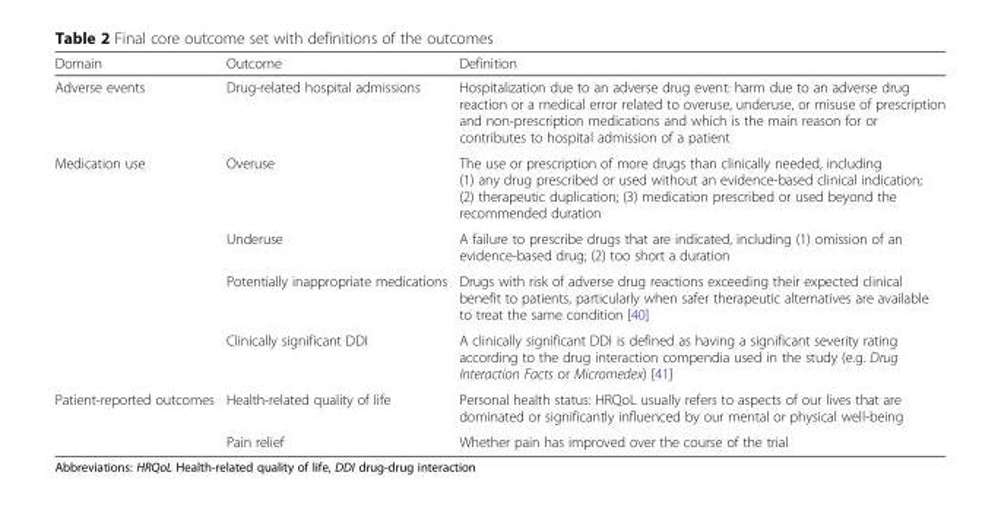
<table><thead><tr><td>Domain</td><td>Outcome</td><td>Definition</td></tr></thead><tbody><tr><td>Adverse events</td><td>Drug-related hospital admissions</td><td>Hospitalization due to an adverse drug event: harm due to an adverse drug reaction or a medical error related to overuse, underuse, or misuse of prescription and non-prescription medications and which is the main reason for or contributes to hospital admission of a patient</td></tr><tr><td rowspan="4">Medication use</td><td>Overuse</td><td>The use or prescription of more drugs than clinically needed, including (1) any drug prescribed or used without an evidence-based clinical indication; (2) therapeutic duplication; (3) medication prescribed or used beyond the recommended duration</td></tr><tr><td>Underuse</td><td>A failure to prescribe drugs that are indicated, including (1) omission of an evidence-based drug; (2) too short a duration</td></tr><tr><td>Potentially inappropriate medications</td><td>Drugs with risk of adverse drug reactions exceeding their expected clinical benefit to patients, particularly when safer therapeutic alternatives are available to treat the same condition [40]</td></tr><tr><td>Clinically significant DDI</td><td>A clinically significant DDI is defined as having a significant severity rating according to the drug interaction compendia used in the study (e.g. Drug Interaction Facts or Micromedex) [41]</td></tr><tr><td rowspan="2">Patient-reported outcomes</td><td>Health-related quality of life</td><td>Personal health status: HRQoL usually refers to aspects of our lives that are dominated or significantly influenced by our mental or physical well-being</td></tr><tr><td>Pain relief</td><td>Whether pain has improved over the course of the trial</td></tr></tbody></table>